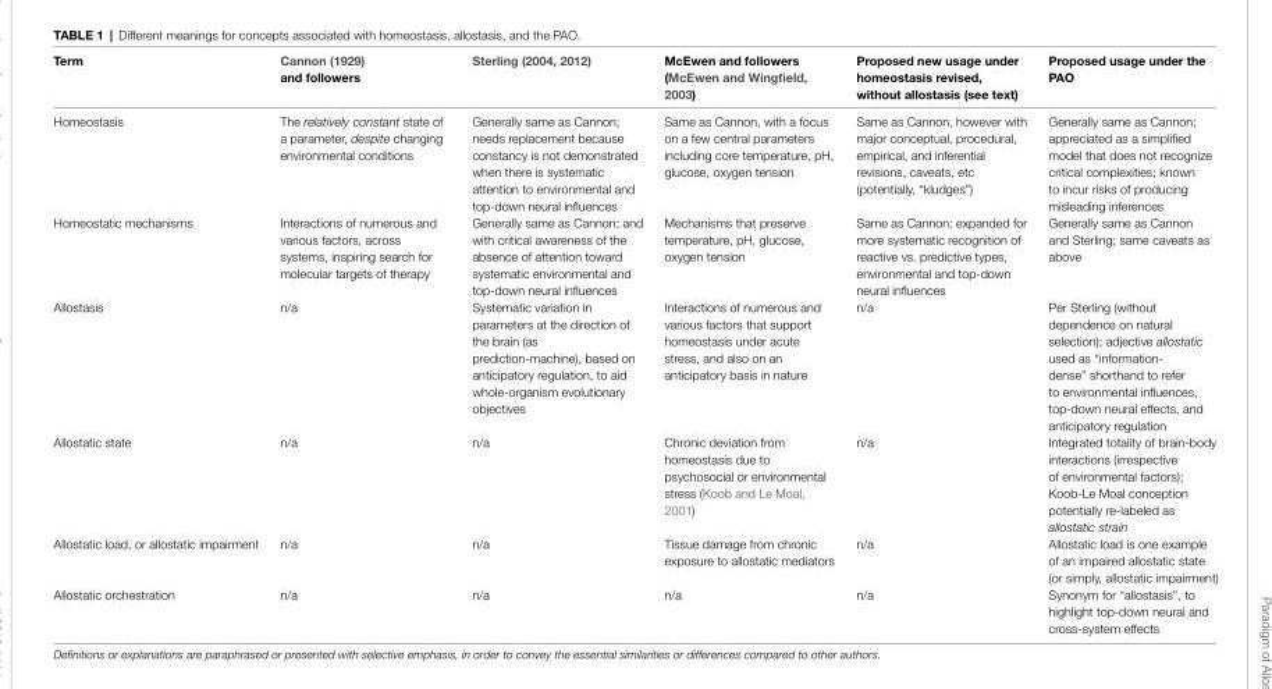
<table><thead><tr><td>Term</td><td>Cannon (1929) and followers</td><td>Sterling (2004, 2012)</td><td>McEwen and followers (McEwen and Wingfield, 2003)</td><td>Proposed new usage under homeostasis revised, without allostasis (see text)</td><td>Proposed usage under the PAO</td></tr></thead><tbody><tr><td>Homeostasis</td><td>The relatively constant state of a parameter, despite changing environmental conditions</td><td>Generally same as Cannon; needs replacement because constancy is not demonstrated when there is systematic attention to environmental and top-down neural influences</td><td>Same as Cannon, with a focus on a few central parameters including core temperature, pH, glucose, oxygen tension</td><td>Same as Cannon, however with major conceptual, procedural, empirical, and inferential revisions, caveats, etc (potentially, “kludges”)</td><td>Generally same as Cannon; appreciated as a simplified model that does not recognize critical complexities; known to incur risks of producing misleading inferences</td></tr><tr><td>Homeostatic mechanisms</td><td>Interactions of numerous and various factors, across systems, inspiring search for molecular targets of therapy</td><td>Generally same as Cannon; and with critical awareness of the absence of attention toward systematic environmental and top-down neural influences</td><td>Mechanisms that preserve temperature, pH, glucose, oxygen tension</td><td>Same as Cannon; expanded for more systematic recognition of reactive vs. predictive types, environmental and top-down neural influences</td><td>Generally same as Cannon and Sterling; same caveats as above</td></tr><tr><td>Allostasis</td><td>n/a</td><td>Systematic variation in parameters at the direction of the brain (as prediction-machine), based on anticipatory regulation, to aid whole-organism evolutionary objectives</td><td>Interactions of numerous and various factors that support homeostasis under acute stress, and also on an anticipatory basis in nature</td><td>n/a</td><td>Per Sterling (without dependence on natural selection); adjective allostatic used as “information- dense” shorthand to refer to environmental influences, top-down neural effects, and anticipatory regulation</td></tr><tr><td>Allostatic state</td><td>n/a</td><td>n/a</td><td>Chronic deviation from homeostasis due to psychosocial or environmental stress (Koob and Le Moal, 2001)</td><td>n/a</td><td>Integrated totality of brain-body interactions (irrespective of environmental factors); Koob-Le Moal conception potentially re-labeled as allostatic strain</td></tr><tr><td>Allostatic load, or allostatic impairment</td><td>n/a</td><td>n/a</td><td>Tissue damage from chronic exposure to allostatic mediators</td><td>n/a</td><td>Allostatic load is one example of an impaired allostatic state (or simply, allostatic impairment)</td></tr><tr><td>Allostatic orchestration</td><td>n/a</td><td>n/a</td><td>n/a</td><td>n/a</td><td>Synonym for “allostasis”, to highlight top-down neural and cross-system effects</td></tr></tbody></table>